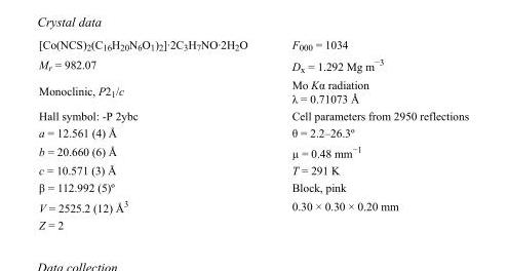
<table><tbody><tr><td>[Co(NCS)2(C16H20N6O1)2]·2C3H7NO·2H2O</td><td>F000 = 1034</td></tr><tr><td>M<sub>r</sub> = 982.07</td><td>D<sub>x</sub> = 1.292 Mg m<sup>−3</sup></td></tr><tr><td>Monoclinic, P2<sub>1</sub>/c</td><td>Mo Kα radiation λ = 0.71073 Å</td></tr><tr><td>Hall symbol: -P 2ybc</td><td>Cell parameters from 2950 reflections</td></tr><tr><td>a = 12.561 (4) Å</td><td>θ = 2.2–26.3º</td></tr><tr><td>b = 20.660 (6) Å</td><td>µ = 0.48 mm<sup>−1</sup></td></tr><tr><td>c = 10.571 (3) Å</td><td>T = 291 K</td></tr><tr><td>β = 112.992 (5)º</td><td>Block, pink</td></tr><tr><td>V = 2525.2 (12) Å<sup>3</sup></td><td>0.30 × 0.30 × 0.20 mm</td></tr><tr><td>Z = 2</td><td></td></tr></tbody></table>